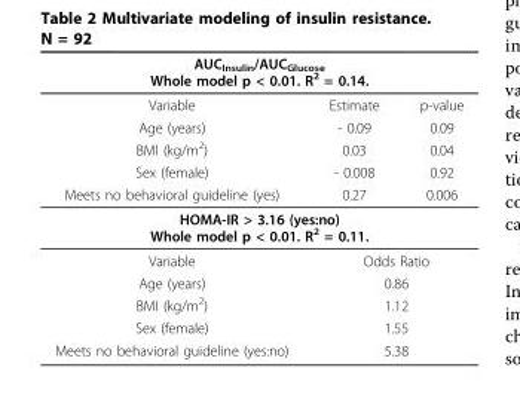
<table><thead><tr><td colspan="3">AUC<sub>Insulin</sub>/AUC<sub>Glucose</sub> Whole model p &lt; 0.01. R<sup>2</sup> = 0.14.</td></tr><tr><td>Variable</td><td>Estimate</td><td>p-value</td></tr></thead><tbody><tr><td>Age (years)</td><td>- 0.09</td><td>0.09</td></tr><tr><td>BMI (kg/m<sup>2</sup>)</td><td>0.03</td><td>0.04</td></tr><tr><td>Sex (female)</td><td>- 0.008</td><td>0.92</td></tr><tr><td>Meets no behavioral guideline (yes)</td><td>0.27</td><td>0.006</td></tr><tr><td colspan="3">HOMA-IR &gt; 3.16 (yes:no) Whole model p &lt; 0.01. R<sup>2</sup> = 0.11.</td></tr><tr><td>Variable</td><td colspan="2">Odds Ratio</td></tr><tr><td>Age (years)</td><td colspan="2">0.86</td></tr><tr><td>BMI (kg/m<sup>2</sup>)</td><td colspan="2">1.12</td></tr><tr><td>Sex (female)</td><td colspan="2">1.55</td></tr><tr><td>Meets no behavioral guideline (yes:no)</td><td colspan="2">5.38</td></tr></tbody></table>